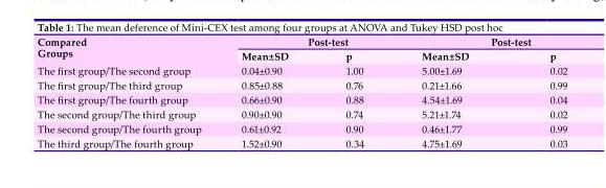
<table><thead><tr><td rowspan="2">Compared Groups</td><td colspan="2">Post-test</td><td colspan="2">Post-test</td></tr><tr><td>Mean±SD</td><td>p</td><td>Mean±SD</td><td>p</td></tr></thead><tbody><tr><td>The first group/The second group</td><td>0.04±0.90</td><td>1.00</td><td>5.00±1.69</td><td>0.02</td></tr><tr><td>The first group/The third group</td><td>0.85±0.88</td><td>0.76</td><td>0.21±1.66</td><td>0.99</td></tr><tr><td>The first group/The fourth group</td><td>0.66±0.90</td><td>0.88</td><td>4.54±1.69</td><td>0.04</td></tr><tr><td>The second group/The third group</td><td>0.90±0.90</td><td>0.74</td><td>5.21±1.74</td><td>0.02</td></tr><tr><td>The second group/The fourth group</td><td>0.61±0.92</td><td>0.90</td><td>0.46±1.77</td><td>0.99</td></tr><tr><td>The third group/The fourth group</td><td>1.52±0.90</td><td>0.34</td><td>4.75±1.69</td><td>0.03</td></tr></tbody></table>